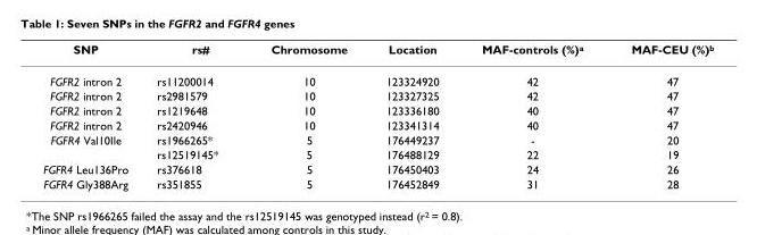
<table><thead><tr><td>SNP</td><td>rs#</td><td>Chromosome</td><td>Location</td><td>MAF-controls (%)<sup>a</sup></td><td>MAF-CEU (%)<sup>b</sup></td></tr></thead><tbody><tr><td>FGFR2 intron 2</td><td>rs11200014</td><td>10</td><td>123324920</td><td>42</td><td>47</td></tr><tr><td>FGFR2 intron 2</td><td>rs2981579</td><td>10</td><td>123327325</td><td>42</td><td>47</td></tr><tr><td>FGFR2 intron 2</td><td>rs1219648</td><td>10</td><td>123336180</td><td>40</td><td>47</td></tr><tr><td>FGFR2 intron 2</td><td>rs2420946</td><td>10</td><td>123341314</td><td>40</td><td>47</td></tr><tr><td rowspan="2">FGFR4 Val10Ile</td><td>rs1966265*</td><td>5</td><td>176449237</td><td>-</td><td>20</td></tr><tr><td>rs12519145*</td><td>5</td><td>176488129</td><td>22</td><td>19</td></tr><tr><td>FGFR4 Leu136Pro</td><td>rs376618</td><td>5</td><td>176450403</td><td>24</td><td>26</td></tr><tr><td>FGFR4 Gly388Arg</td><td>rs351855</td><td>5</td><td>176452849</td><td>31</td><td>28</td></tr></tbody></table>